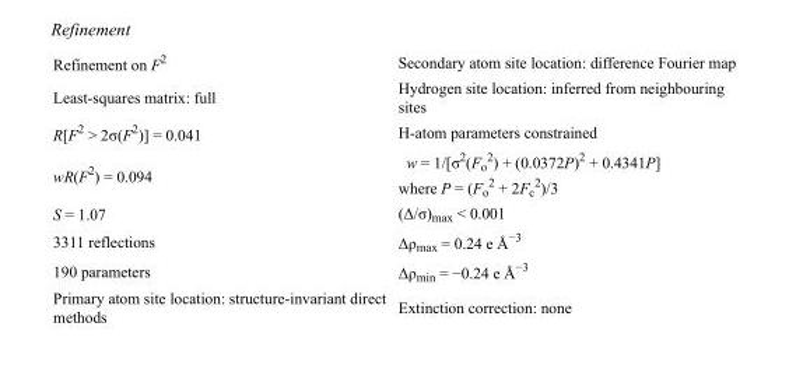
<table><tbody><tr><td>Refinement on F<sup>2</sup></td><td>Secondary atom site location: difference Fourier map</td></tr><tr><td>Least-squares matrix: full</td><td>Hydrogen site location: inferred from neighbouring sites</td></tr><tr><td>R[F<sup>2</sup> &gt; 2σ(F<sup>2</sup>)] = 0.041</td><td>H-atom parameters constrained</td></tr><tr><td>wR(F<sup>2</sup>) = 0.094</td><td>w = 1/[σ<sup>2</sup>(F<sub>o</sub> <sup>2</sup>) + (0.0372P)<sup>2</sup> + 0.4341P] where P = (F<sub>o</sub> <sup>2</sup> + 2F<sub>c</sub> <sup>2</sup>)/3</td></tr><tr><td>S = 1.07</td><td>(Δ/σ)<sub>max</sub> &lt; 0.001</td></tr><tr><td>3311 reflections</td><td>Δρ<sub>max</sub> = 0.24 e Å<sup>−3</sup></td></tr><tr><td>190 parameters</td><td>Δρ<sub>min</sub> = −0.24 e Å<sup>−3</sup></td></tr><tr><td>Primary atom site location: structure-invariant direct methods</td><td>Extinction correction: none</td></tr></tbody></table>